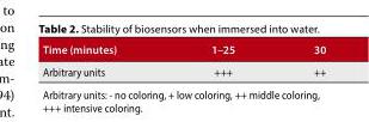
<table><thead><tr><td>Time (minutes)</td><td>1–25</td><td>30</td></tr></thead><tbody><tr><td>Arbitrary units</td><td>+++</td><td>++</td></tr></tbody></table>